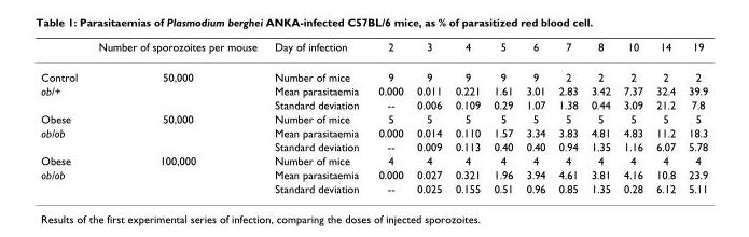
<table><thead><tr><td></td><td>Number of sporozoites per mouse</td><td>Day of infection</td><td>2</td><td>3</td><td>4</td><td>5</td><td>6</td><td>7</td><td>8</td><td>10</td><td>14</td><td>19</td></tr></thead><tbody><tr><td>Control</td><td>50,000</td><td>Number of mice</td><td>9</td><td>9</td><td>9</td><td>9</td><td>9</td><td>2</td><td>2</td><td>2</td><td>2</td><td>2</td></tr><tr><td rowspan="2">ob/+</td><td></td><td>Mean parasitaemia</td><td>0.000</td><td>0.011</td><td>0.221</td><td>1.61</td><td>3.01</td><td>2.83</td><td>3.42</td><td>7.37</td><td>32.4</td><td>39.9</td></tr><tr><td></td><td>Standard deviation</td><td>--</td><td>0.006</td><td>0.109</td><td>0.29</td><td>1.07</td><td>1.38</td><td>0.44</td><td>3.09</td><td>21.2</td><td>7.8</td></tr><tr><td>Obese</td><td>50,000</td><td>Number of mice</td><td>5</td><td>5</td><td>5</td><td>5</td><td>5</td><td>5</td><td>5</td><td>5</td><td>5</td><td>5</td></tr><tr><td rowspan="2">ob/ob</td><td></td><td>Mean parasitaemia</td><td>0.000</td><td>0.014</td><td>0.110</td><td>1.57</td><td>3.34</td><td>3.83</td><td>4.81</td><td>4.83</td><td>11.2</td><td>18.3</td></tr><tr><td></td><td>Standard deviation</td><td>--</td><td>0.009</td><td>0.113</td><td>0.40</td><td>0.40</td><td>0.94</td><td>1.35</td><td>1.16</td><td>6.07</td><td>5.78</td></tr><tr><td>Obese</td><td>100,000</td><td>Number of mice</td><td>4</td><td>4</td><td>4</td><td>4</td><td>4</td><td>4</td><td>4</td><td>4</td><td>4</td><td>4</td></tr><tr><td rowspan="2">ob/ob</td><td></td><td>Mean parasitaemia</td><td>0.000</td><td>0.027</td><td>0.321</td><td>1.96</td><td>3.94</td><td>4.61</td><td>3.81</td><td>4.16</td><td>10.8</td><td>23.9</td></tr><tr><td></td><td>Standard deviation</td><td>--</td><td>0.025</td><td>0.155</td><td>0.51</td><td>0.96</td><td>0.85</td><td>1.35</td><td>0.28</td><td>6.12</td><td>5.11</td></tr></tbody></table>